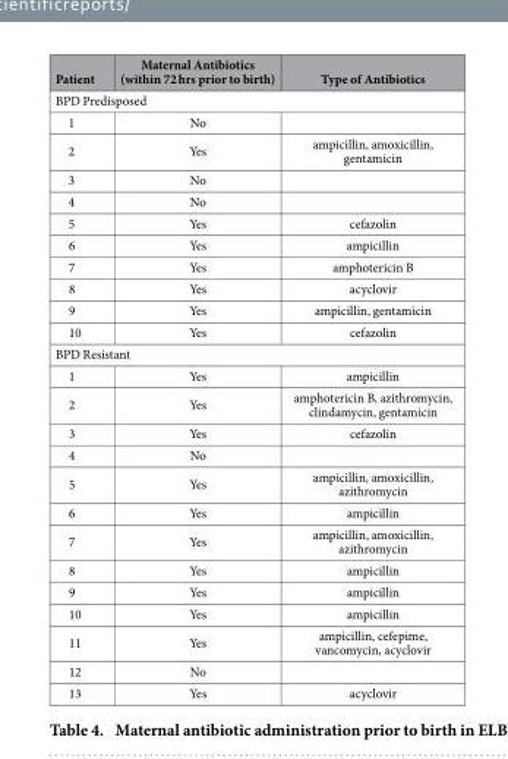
<table><thead><tr><td>Patient</td><td>Maternal Antibiotics (within 72 hrs prior to birth)</td><td>Type of Antibiotics</td></tr></thead><tbody><tr><td colspan="3">BPD Predisposed</td></tr><tr><td>1</td><td>No</td><td></td></tr><tr><td>2</td><td>Yes</td><td>ampicillin, amoxicillin, gentamicin</td></tr><tr><td>3</td><td>No</td><td></td></tr><tr><td>4</td><td>No</td><td></td></tr><tr><td>5</td><td>Yes</td><td>cefazolin</td></tr><tr><td>6</td><td>Yes</td><td>ampicillin</td></tr><tr><td>7</td><td>Yes</td><td>amphotericin B</td></tr><tr><td>8</td><td>Yes</td><td>acyclovir</td></tr><tr><td>9</td><td>Yes</td><td>ampicillin, gentamicin</td></tr><tr><td>10</td><td>Yes</td><td>cefazolin</td></tr><tr><td colspan="3">BPD Resistant</td></tr><tr><td>1</td><td>Yes</td><td>ampicillin</td></tr><tr><td>2</td><td>Yes</td><td>amphotericin B, azithromycin, clindamycin, gentamicin</td></tr><tr><td>3</td><td>Yes</td><td>cefazolin</td></tr><tr><td>4</td><td>No</td><td></td></tr><tr><td>5</td><td>Yes</td><td>ampicillin, amoxicillin, azithromycin</td></tr><tr><td>6</td><td>Yes</td><td>ampicillin</td></tr><tr><td>7</td><td>Yes</td><td>ampicillin, amoxicillin, azithromycin</td></tr><tr><td>8</td><td>Yes</td><td>ampicillin</td></tr><tr><td>9</td><td>Yes</td><td>ampicillin</td></tr><tr><td>10</td><td>Yes</td><td>ampicillin</td></tr><tr><td>11</td><td>Yes</td><td>ampicillin, cefepime, vancomycin, acyclovir</td></tr><tr><td>12</td><td>No</td><td></td></tr><tr><td>13</td><td>Yes</td><td>acyclovir</td></tr></tbody></table>